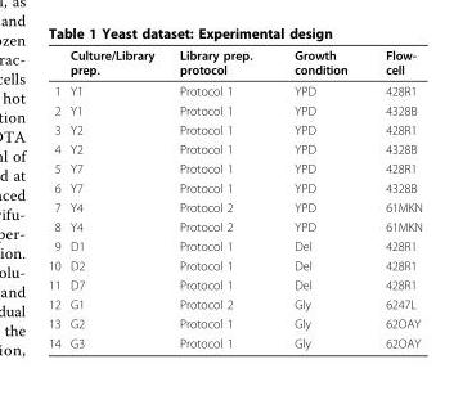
<table><thead><tr><td></td><td>Culture/Library prep.</td><td>Library prep. protocol</td><td>Growth condition</td><td>Flow- cell</td></tr></thead><tbody><tr><td>1</td><td>Y1</td><td>Protocol 1</td><td>YPD</td><td>428R1</td></tr><tr><td>2</td><td>Y1</td><td>Protocol 1</td><td>YPD</td><td>4328B</td></tr><tr><td>3</td><td>Y2</td><td>Protocol 1</td><td>YPD</td><td>428R1</td></tr><tr><td>4</td><td>Y2</td><td>Protocol 1</td><td>YPD</td><td>4328B</td></tr><tr><td>5</td><td>Y7</td><td>Protocol 1</td><td>YPD</td><td>428R1</td></tr><tr><td>6</td><td>Y7</td><td>Protocol 1</td><td>YPD</td><td>4328B</td></tr><tr><td>7</td><td>Y4</td><td>Protocol 2</td><td>YPD</td><td>61MKN</td></tr><tr><td>8</td><td>Y4</td><td>Protocol 2</td><td>YPD</td><td>61MKN</td></tr><tr><td>9</td><td>D1</td><td>Protocol 1</td><td>Del</td><td>428R1</td></tr><tr><td>10</td><td>D2</td><td>Protocol 1</td><td>Del</td><td>428R1</td></tr><tr><td>11</td><td>D7</td><td>Protocol 1</td><td>Del</td><td>428R1</td></tr><tr><td>12</td><td>G1</td><td>Protocol 2</td><td>Gly</td><td>6247L</td></tr><tr><td>13</td><td>G2</td><td>Protocol 1</td><td>Gly</td><td>62OAY</td></tr><tr><td>14</td><td>G3</td><td>Protocol 1</td><td>Gly</td><td>62OAY</td></tr></tbody></table>